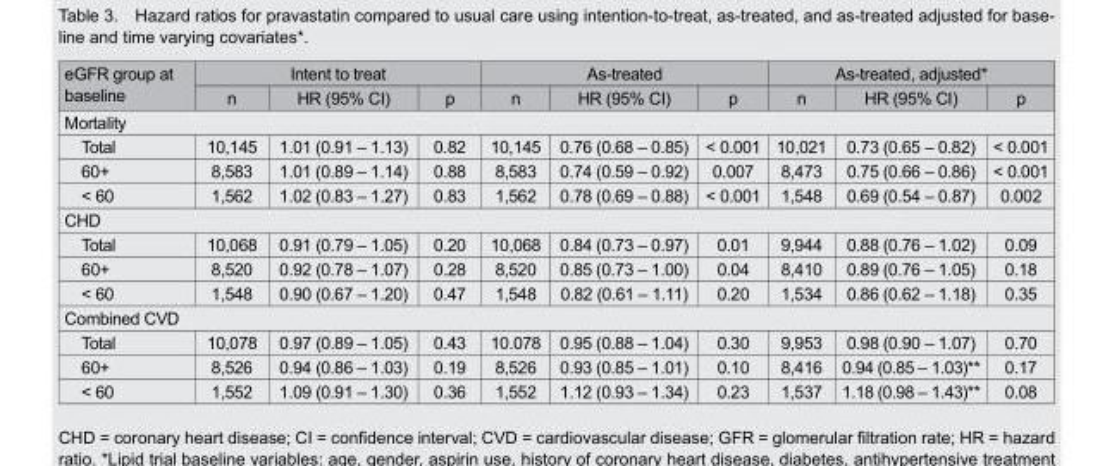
<table><thead><tr><td rowspan="2">eGFR group at baseline</td><td colspan="3">Intent to treat</td><td colspan="3">As-treated</td><td colspan="3">As-treated, adjusted*</td></tr><tr><td>n</td><td>HR (95% CI)</td><td>p</td><td>n</td><td>HR (95% CI)</td><td>p</td><td>n</td><td>HR (95% CI)</td><td>p</td></tr></thead><tbody><tr><td colspan="10">Mortality</td></tr><tr><td>Total</td><td>10,145</td><td>1.01 (0.91 – 1.13)</td><td>0.82</td><td>10,145</td><td>0.76 (0.68 – 0.85)</td><td>&lt; 0.001</td><td>10,021</td><td>0.73 (0.65 – 0.82)</td><td>&lt; 0.001</td></tr><tr><td>60+</td><td>8,583</td><td>1.01 (0.89 – 1.14)</td><td>0.88</td><td>8,583</td><td>0.74 (0.59 – 0.92)</td><td>0.007</td><td>8,473</td><td>0.75 (0.66 – 0.86)</td><td>&lt; 0.001</td></tr><tr><td>&lt; 60</td><td>1,562</td><td>1.02 (0.83 – 1.27)</td><td>0.83</td><td>1,562</td><td>0.78 (0.69 – 0.88)</td><td>&lt; 0.001</td><td>1,548</td><td>0.69 (0.54 – 0.87)</td><td>0.002</td></tr><tr><td colspan="10">CHD</td></tr><tr><td>Total</td><td>10,068</td><td>0.91 (0.79 – 1.05)</td><td>0.20</td><td>10,068</td><td>0.84 (0.73 – 0.97)</td><td>0.01</td><td>9,944</td><td>0.88 (0.76 – 1.02)</td><td>0.09</td></tr><tr><td>60+</td><td>8,520</td><td>0.92 (0.78 – 1.07)</td><td>0.28</td><td>8,520</td><td>0.85 (0.73 – 1.00)</td><td>0.04</td><td>8,410</td><td>0.89 (0.76 – 1.05)</td><td>0.18</td></tr><tr><td>&lt; 60</td><td>1,548</td><td>0.90 (0.67 – 1.20)</td><td>0.47</td><td>1,548</td><td>0.82 (0.61 – 1.11)</td><td>0.20</td><td>1,534</td><td>0.86 (0.62 – 1.18)</td><td>0.35</td></tr><tr><td colspan="10">Combined CVD</td></tr><tr><td>Total</td><td>10,078</td><td>0.97 (0.89 – 1.05)</td><td>0.43</td><td>10.078</td><td>0.95 (0.88 – 1.04)</td><td>0.30</td><td>9,953</td><td>0.98 (0.90 – 1.07)</td><td>0.70</td></tr><tr><td>60+</td><td>8,526</td><td>0.94 (0.86 – 1.03)</td><td>0.19</td><td>8,526</td><td>0.93 (0.85 – 1.01)</td><td>0.10</td><td>8,416</td><td>0.94 (0.85 – 1.03)**</td><td>0.17</td></tr><tr><td>&lt; 60</td><td>1,552</td><td>1.09 (0.91 – 1.30)</td><td>0.36</td><td>1,552</td><td>1.12 (0.93 – 1.34)</td><td>0.23</td><td>1,537</td><td>1.18 (0.98 – 1.43)**</td><td>0.08</td></tr></tbody></table>